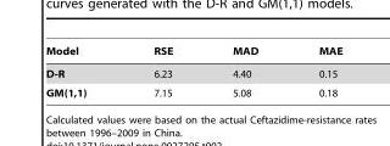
<table><thead><tr><td>Model</td><td>RSE</td><td>MAD</td><td>MAE</td></tr></thead><tbody><tr><td>D-R</td><td>6.23</td><td>4.40</td><td>0.15</td></tr><tr><td>GM(1,1)</td><td>7.15</td><td>5.08</td><td>0.18</td></tr></tbody></table>